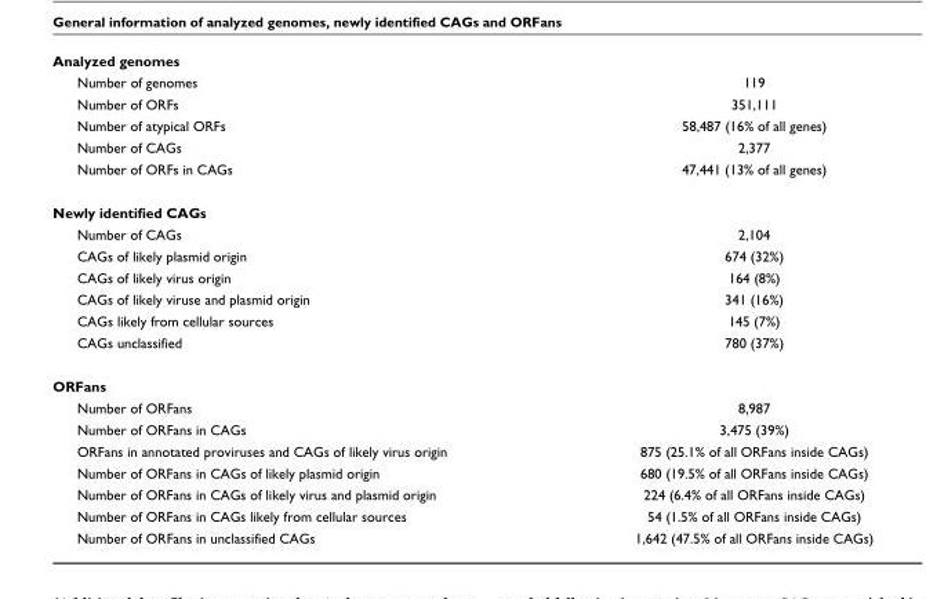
<table><tbody><tr><td colspan="2">Analyzed genomes</td></tr><tr><td>Number of genomes</td><td>119</td></tr><tr><td>Number of ORFs</td><td>351,111</td></tr><tr><td>Number of atypical ORFs</td><td>58,487 (16% of all genes)</td></tr><tr><td>Number of CAGs</td><td>2,377</td></tr><tr><td>Number of ORFs in CAGs</td><td>47,441 (13% of all genes)</td></tr><tr><td colspan="2">Newly identified CAGs</td></tr><tr><td>Number of CAGs</td><td>2,104</td></tr><tr><td>CAGs of likely plasmid origin</td><td>674 (32%)</td></tr><tr><td>CAGs of likely virus origin</td><td>164 (8%)</td></tr><tr><td>CAGs of likely viruse and plasmid origin</td><td>341 (16%)</td></tr><tr><td>CAGs likely from cellular sources</td><td>145 (7%)</td></tr><tr><td>CAGs unclassified</td><td>780 (37%)</td></tr><tr><td colspan="2">ORFans</td></tr><tr><td>Number of ORFans</td><td>8,987</td></tr><tr><td>Number of ORFans in CAGs</td><td>3,475 (39%)</td></tr><tr><td>ORFans in annotated proviruses and CAGs of likely virus origin</td><td>875 (25.1% of all ORFans inside CAGs)</td></tr><tr><td>Number of ORFans in CAGs of likely plasmid origin</td><td>680 (19.5% of all ORFans inside CAGs)</td></tr><tr><td>Number of ORFans in CAGs of likely virus and plasmid origin</td><td>224 (6.4% of all ORFans inside CAGs)</td></tr><tr><td>Number of ORFans in CAGs likely from cellular sources</td><td>54 (1.5% of all ORFans inside CAGs)</td></tr><tr><td>Number of ORFans in unclassified CAGs</td><td>1,642 (47.5% of all ORFans inside CAGs)</td></tr></tbody></table>